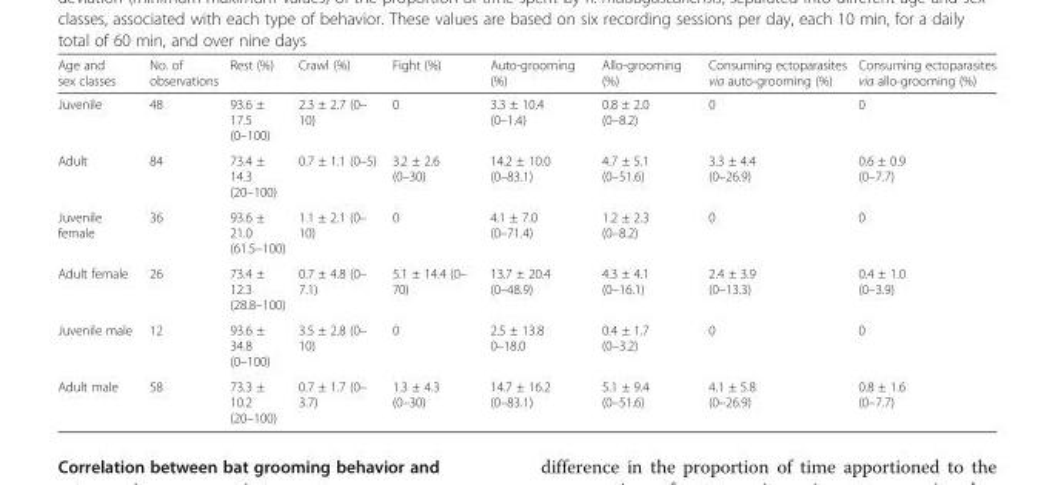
<table><thead><tr><td>Age and sex classes</td><td>No. of observations</td><td>Rest (%)</td><td>Crawl (%)</td><td>Fight (%)</td><td>Auto-grooming (%)</td><td>Allo-grooming (%)</td><td>Consuming ectoparasites via auto-grooming (%)</td><td>Consuming ectoparasites via allo-grooming (%)</td></tr></thead><tbody><tr><td>Juvenile</td><td>48</td><td>93.6 ± 17.5 (0–100)</td><td>2.3 ± 2.7 (0– 10)</td><td>0</td><td>3.3 ± 10.4 (0–1.4)</td><td>0.8 ± 2.0 (0–8.2)</td><td>0</td><td>0</td></tr><tr><td>Adult</td><td>84</td><td>73.4 ± 14.3 (20–100)</td><td>0.7 ± 1.1 (0–5)</td><td>3.2 ± 2.6 (0–30)</td><td>14.2 ± 10.0 (0–83.1)</td><td>4.7 ± 5.1 (0–51.6)</td><td>3.3 ± 4.4 (0–26.9)</td><td>0.6 ± 0.9 (0–7.7)</td></tr><tr><td>Juvenile female</td><td>36</td><td>93.6 ± 21.0 (61.5–100)</td><td>1.1 ± 2.1 (0– 10)</td><td>0</td><td>4.1 ± 7.0 (0–71.4)</td><td>1.2 ± 2.3 (0–8.2)</td><td>0</td><td>0</td></tr><tr><td>Adult female</td><td>26</td><td>73.4 ± 12.3 (28.8–100)</td><td>0.7 ± 4.8 (0– 7.1)</td><td>5.1 ± 14.4 (0– 70)</td><td>13.7 ± 20.4 (0–48.9)</td><td>4.3 ± 4.1 (0–16.1)</td><td>2.4 ± 3.9 (0–13.3)</td><td>0.4 ± 1.0 (0–3.9)</td></tr><tr><td>Juvenile male</td><td>12</td><td>93.6 ± 34.8 (0–100)</td><td>3.5 ± 2.8 (0– 10)</td><td>0</td><td>2.5 ± 13.8 0–18.0</td><td>0.4 ± 1.7 (0–3.2)</td><td>0</td><td>0</td></tr><tr><td>Adult male</td><td>58</td><td>73.3 ± 10.2 (20–100)</td><td>0.7 ± 1.7 (0– 3.7)</td><td>1.3 ± 4.3 (0–30)</td><td>14.7 ± 16.2 (0–83.1)</td><td>5.1 ± 9.4 (0–51.6)</td><td>4.1 ± 5.8 (0–26.9)</td><td>0.8 ± 1.6 (0–7.7)</td></tr></tbody></table>